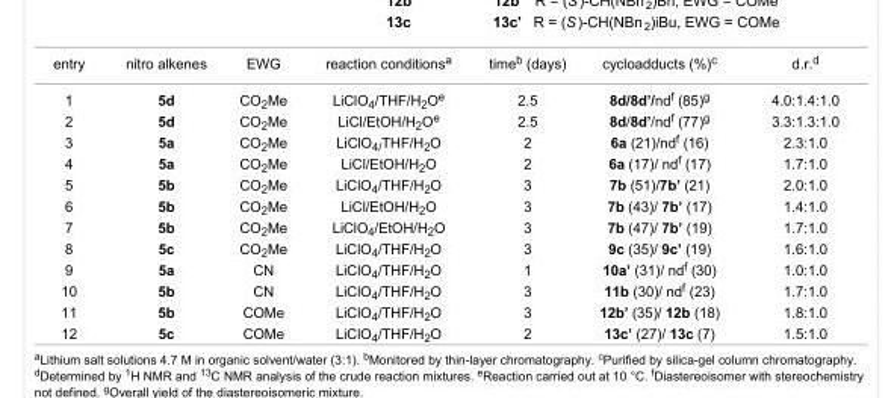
<table><tbody><tr><td>entry</td><td>nitro alkenes</td><td>EWG</td><td>reaction conditions<sup>a</sup></td><td>time<sup>b</sup> (days)</td><td>cycloadducts (%)<sup>c</sup></td><td>d.r.<sup>d</sup></td></tr><tr><td>1</td><td>5d</td><td>CO<sub>2</sub>Me</td><td>LiClO<sub>4</sub>/THF/H<sub>2</sub>O<sup>e</sup></td><td>2.5</td><td>8d/8d’/nd<sup>f</sup> (85)<sup>g</sup></td><td>4.0:1.4:1.0</td></tr><tr><td>2</td><td>5d</td><td>CO<sub>2</sub>Me</td><td>LiCl/EtOH/H<sub>2</sub>O<sup>e</sup></td><td>2.5</td><td>8d/8d’/nd<sup>f</sup> (77)<sup>g</sup></td><td>3.3:1.3:1.0</td></tr><tr><td>3</td><td>5a</td><td>CO<sub>2</sub>Me</td><td>LiClO<sub>4/</sub>THF/H<sub>2</sub>O</td><td>2</td><td>6a (21)/nd<sup>f</sup> (16)</td><td>2.3:1.0</td></tr><tr><td>4</td><td>5a</td><td>CO<sub>2</sub>Me</td><td>LiCl/EtOH/H<sub>2</sub>O</td><td>2</td><td>6a (17)/ nd<sup>f</sup> (17)</td><td>1.7:1.0</td></tr><tr><td>5</td><td>5b</td><td>CO<sub>2</sub>Me</td><td>LiClO<sub>4</sub>/THF/H<sub>2</sub>O</td><td>3</td><td>7b (51)/7b’ (21)</td><td>2.0:1.0</td></tr><tr><td>6</td><td>5b</td><td>CO<sub>2</sub>Me</td><td>LiCl/EtOH/H<sub>2</sub>O</td><td>3</td><td>7b (43)/ 7b’ (17)</td><td>1.4:1.0</td></tr><tr><td>7</td><td>5b</td><td>CO<sub>2</sub>Me</td><td>LiClO<sub>4</sub>/EtOH/H<sub>2</sub>O</td><td>3</td><td>7b (47)/ 7b’ (19)</td><td>1.7:1.0</td></tr><tr><td>8</td><td>5c</td><td>CO<sub>2</sub>Me</td><td>LiClO<sub>4</sub>/THF/H<sub>2</sub>O</td><td>3</td><td>9c (35)/ 9c’ (19)</td><td>1.6:1.0</td></tr><tr><td>9</td><td>5a</td><td>CN</td><td>LiClO<sub>4</sub>/THF/H<sub>2</sub>O</td><td>1</td><td>10a’ (31)/ nd<sup>f</sup> (30)</td><td>1.0:1.0</td></tr><tr><td>10</td><td>5b</td><td>CN</td><td>LiClO<sub>4</sub>/THF/H<sub>2</sub>O</td><td>3</td><td>11b (30)/ nd<sup>f</sup> (23)</td><td>1.7:1.0</td></tr><tr><td>11</td><td>5b</td><td>COMe</td><td>LiClO<sub>4</sub>/THF/H<sub>2</sub>O</td><td>3</td><td>12b’ (35)/ 12b (18)</td><td>1.8:1.0</td></tr><tr><td>12</td><td>5c</td><td>COMe</td><td>LiClO<sub>4</sub>/THF/H<sub>2</sub>O</td><td>2</td><td>13c’ (27)/ 13c (7)</td><td>1.5:1.0</td></tr></tbody></table>